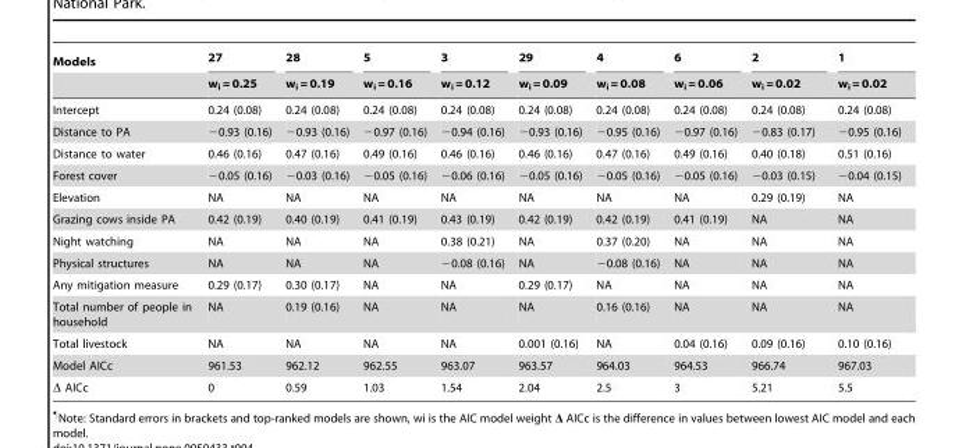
<table><thead><tr><td rowspan="2">Models</td><td rowspan="2">27 w<sub>i</sub> = 0.25</td><td rowspan="2">28 w<sub>i</sub> = 0.19</td><td rowspan="2">5 w<sub>i</sub> = 0.16</td><td rowspan="2">3 wi = 0.12</td><td rowspan="2">29 w<sub>i</sub> = 0.09</td><td rowspan="2">4 w<sub>i</sub> = 0.08</td><td rowspan="2">6 w<sub>i</sub> = 0.06</td><td rowspan="2">2 w<sub>i</sub> = 0.02</td><td rowspan="2">1 w<sub>i</sub> = 0.02</td></tr><tr></tr></thead><tbody><tr><td>Intercept</td><td>0.24 (0.08)</td><td>0.24 (0.08)</td><td>0.24 (0.08)</td><td>0.24 (0.08)</td><td>0.24 (0.08)</td><td>0.24 (0.08)</td><td>0.24 (0.08)</td><td>0.24 (0.08)</td><td>0.24 (0.08)</td></tr><tr><td>Distance to PA</td><td>−0.93 (0.16)</td><td>−0.93 (0.16)</td><td>−0.97 (0.16)</td><td>−0.94 (0.16)</td><td>−0.93 (0.16)</td><td>−0.95 (0.16)</td><td>−0.97 (0.16)</td><td>−0.83 (0.17)</td><td>−0.95 (0.16)</td></tr><tr><td>Distance to water</td><td>0.46 (0.16)</td><td>0.47 (0.16)</td><td>0.49 (0.16)</td><td>0.46 (0.16)</td><td>0.46 (0.16)</td><td>0.47 (0.16)</td><td>0.49 (0.16)</td><td>0.40 (0.18)</td><td>0.51 (0.16)</td></tr><tr><td>Forest cover</td><td>−0.05 (0.16)</td><td>−0.03 (0.16)</td><td>−0.05 (0.16)</td><td>−0.06 (0.16)</td><td>−0.05 (0.16)</td><td>−0.05 (0.16)</td><td>−0.05 (0.16)</td><td>−0.03 (0.15)</td><td>−0.04 (0.15)</td></tr><tr><td>Elevation</td><td>NA</td><td>NA</td><td>NA</td><td>NA</td><td>NA</td><td>NA</td><td>NA</td><td>0.29 (0.19)</td><td>NA</td></tr><tr><td>Grazing cows inside PA</td><td>0.42 (0.19)</td><td>0.40 (0.19)</td><td>0.41 (0.19)</td><td>0.43 (0.19)</td><td>0.42 (0.19)</td><td>0.42 (0.19)</td><td>0.41 (0.19)</td><td>NA</td><td>NA</td></tr><tr><td>Night watching</td><td>NA</td><td>NA</td><td>NA</td><td>0.38 (0.21)</td><td>NA</td><td>0.37 (0.20)</td><td>NA</td><td>NA</td><td>NA</td></tr><tr><td>Physical structures</td><td>NA</td><td>NA</td><td>NA</td><td>−0.08 (0.16)</td><td>NA</td><td>−0.08 (0.16)</td><td>NA</td><td>NA</td><td>NA</td></tr><tr><td>Any mitigation measure</td><td>0.29 (0.17)</td><td>0.30 (0.17)</td><td>NA</td><td>NA</td><td>0.29 (0.17)</td><td>NA</td><td>NA</td><td>NA</td><td>NA</td></tr><tr><td>Total number of people in household</td><td>NA</td><td>0.19 (0.16)</td><td>NA</td><td>NA</td><td>NA</td><td>0.16 (0.16)</td><td>NA</td><td>NA</td><td>NA</td></tr><tr><td>Total livestock</td><td>NA</td><td>NA</td><td>NA</td><td>NA</td><td>0.001 (0.16)</td><td>NA</td><td>0.04 (0.16)</td><td>0.09 (0.16)</td><td>0.10 (0.16)</td></tr><tr><td>Model AICc</td><td>961.53</td><td>962.12</td><td>962.55</td><td>963.07</td><td>963.57</td><td>964.03</td><td>964.53</td><td>966.74</td><td>967.03</td></tr><tr><td>Δ AICc</td><td>0</td><td>0.59</td><td>1.03</td><td>1.54</td><td>2.04</td><td>2.5</td><td>3</td><td>5.21</td><td>5.5</td></tr></tbody></table>